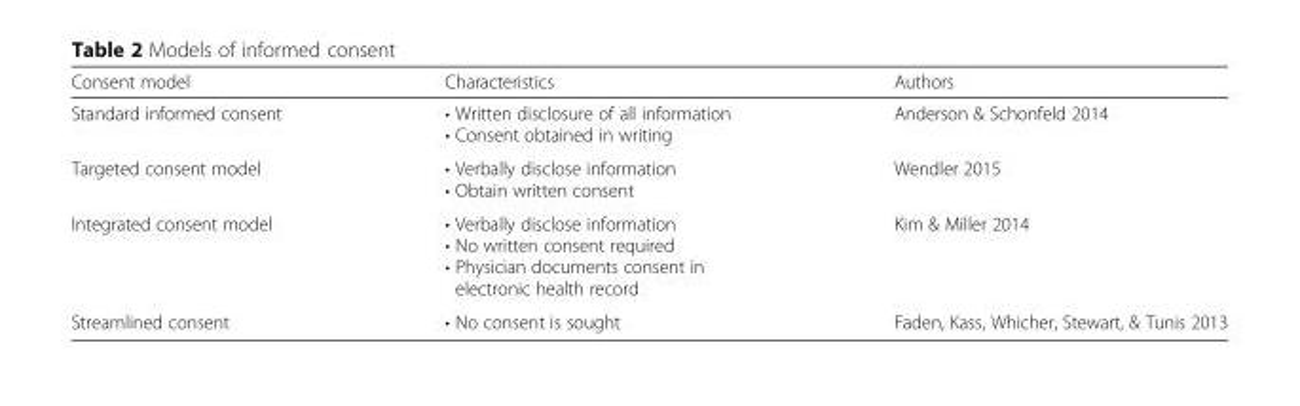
<table><thead><tr><td>Consent model</td><td>Characteristics</td><td>Authors</td></tr></thead><tbody><tr><td>Standard informed consent</td><td>• Written disclosure of all information • Consent obtained in writing</td><td>Anderson &amp; Schonfeld 2014</td></tr><tr><td>Targeted consent model</td><td>• Verbally disclose information • Obtain written consent</td><td>Wendler 2015</td></tr><tr><td>Integrated consent model</td><td>• Verbally disclose information • No written consent required • Physician documents consent in electronic health record</td><td>Kim &amp; Miller 2014</td></tr><tr><td>Streamlined consent</td><td>• No consent is sought</td><td>Faden, Kass, Whicher, Stewart, &amp; Tunis 2013</td></tr></tbody></table>